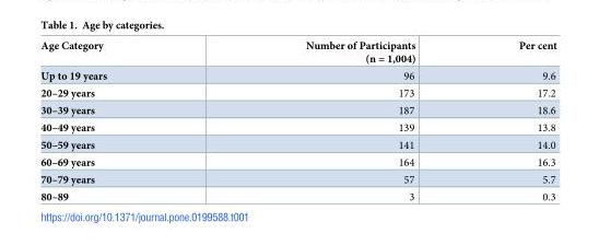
<table><thead><tr><td>Age Category</td><td>Number of Participants (n = 1,004)</td><td>Per cent</td></tr></thead><tbody><tr><td>Up to 19 years</td><td>96</td><td>9.6</td></tr><tr><td>20–29 years</td><td>173</td><td>17.2</td></tr><tr><td>30–39 years</td><td>187</td><td>18.6</td></tr><tr><td>40–49 years</td><td>139</td><td>13.8</td></tr><tr><td>50–59 years</td><td>141</td><td>14.0</td></tr><tr><td>60–69 years</td><td>164</td><td>16.3</td></tr><tr><td>70–79 years</td><td>57</td><td>5.7</td></tr><tr><td>80–89</td><td>3</td><td>0.3</td></tr></tbody></table>